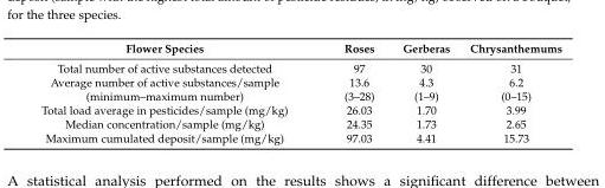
<table><thead><tr><td>Flower Species</td><td>Roses</td><td>Gerberas</td><td>Chrysanthemums</td></tr></thead><tbody><tr><td>Total number of active substances detected</td><td>97</td><td>30</td><td>31</td></tr><tr><td>Average number of active substances/sample</td><td>13.6</td><td>4.3</td><td>6.2</td></tr><tr><td>(minimum–maximum number)</td><td>(3–28)</td><td>(1–9)</td><td>(0–15)</td></tr><tr><td>Total load average in pesticides/sample (mg/kg)</td><td>26.03</td><td>1.70</td><td>3.99</td></tr><tr><td>Median concentration/sample (mg/kg)</td><td>24.35</td><td>1.73</td><td>2.65</td></tr><tr><td>Maximum cumulated deposit/sample (mg/kg)</td><td>97.03</td><td>4.41</td><td>15.73</td></tr></tbody></table>